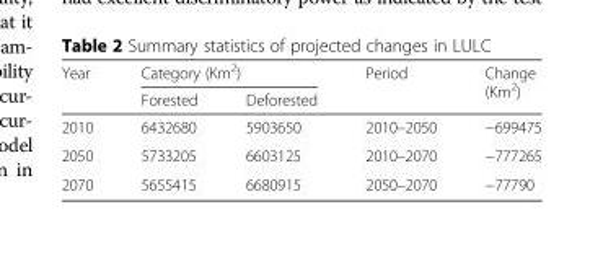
<table><thead><tr><td rowspan="2">Year</td><td colspan="2">Category (Km<sup>2</sup>)</td><td rowspan="2">Period</td><td rowspan="2">Change (Km<sup>2</sup>)</td></tr><tr><td>Forested</td><td>Deforested</td></tr></thead><tbody><tr><td>2010</td><td>6432680</td><td>5903650</td><td>2010–2050</td><td>−699475</td></tr><tr><td>2050</td><td>5733205</td><td>6603125</td><td>2010–2070</td><td>−777265</td></tr><tr><td>2070</td><td>5655415</td><td>6680915</td><td>2050–2070</td><td>−77790</td></tr></tbody></table>